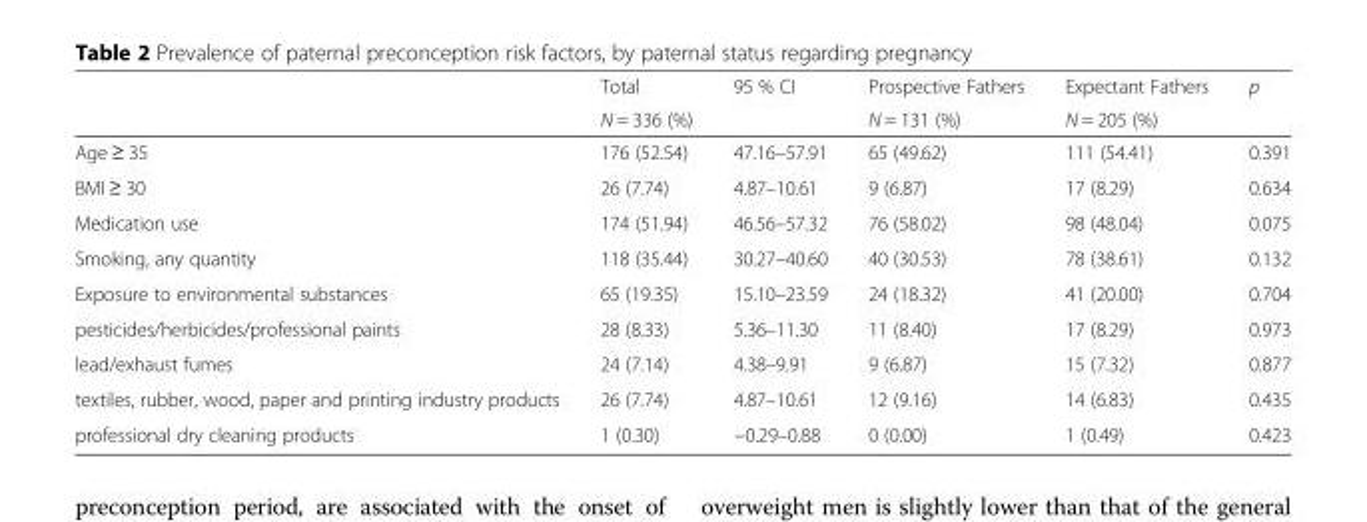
<table><thead><tr><td rowspan="2"></td><td rowspan="2">Total N = 336 (%)</td><td rowspan="2">95 % CI</td><td rowspan="2">Prospective Fathers N = 131 (%)</td><td rowspan="2">Expectant Fathers N = 205 (%)</td><td rowspan="2">p</td></tr><tr></tr></thead><tbody><tr><td>Age ≥ 35</td><td>176 (52.54)</td><td>47.16–57.91</td><td>65 (49.62)</td><td>111 (54.41)</td><td>0.391</td></tr><tr><td>BMI ≥ 30</td><td>26 (7.74)</td><td>4.87–10.61</td><td>9 (6.87)</td><td>17 (8.29)</td><td>0.634</td></tr><tr><td>Medication use</td><td>174 (51.94)</td><td>46.56–57.32</td><td>76 (58.02)</td><td>98 (48.04)</td><td>0.075</td></tr><tr><td>Smoking, any quantity</td><td>118 (35.44)</td><td>30.27–40.60</td><td>40 (30.53)</td><td>78 (38.61)</td><td>0.132</td></tr><tr><td>Exposure to environmental substances</td><td>65 (19.35)</td><td>15.10–23.59</td><td>24 (18.32)</td><td>41 (20.00)</td><td>0.704</td></tr><tr><td>pesticides/herbicides/professional paints</td><td>28 (8.33)</td><td>5.36–11.30</td><td>11 (8.40)</td><td>17 (8.29)</td><td>0.973</td></tr><tr><td>lead/exhaust fumes</td><td>24 (7.14)</td><td>4.38–9.91</td><td>9 (6.87)</td><td>15 (7.32)</td><td>0.877</td></tr><tr><td>textiles, rubber, wood, paper and printing industry products</td><td>26 (7.74)</td><td>4.87–10.61</td><td>12 (9.16)</td><td>14 (6.83)</td><td>0.435</td></tr><tr><td>professional dry cleaning products</td><td>1 (0.30)</td><td>−0.29–0.88</td><td>0 (0.00)</td><td>1 (0.49)</td><td>0.423</td></tr></tbody></table>